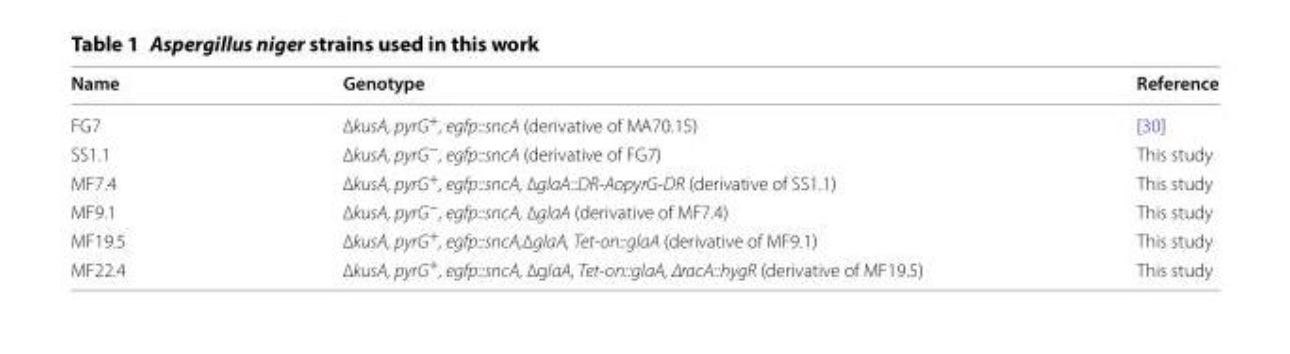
<table><thead><tr><td>Name</td><td>Genotype</td><td>Reference</td></tr></thead><tbody><tr><td>FG7</td><td>∆kusA, pyrG<sup>+</sup>, egfp::sncA (derivative of MA70.15)</td><td>[30]</td></tr><tr><td>SS1.1</td><td>∆kusA, pyrG<sup>−</sup>, egfp::sncA (derivative of FG7)</td><td>This study</td></tr><tr><td>MF7.4</td><td>∆kusA, pyrG<sup>+</sup>, egfp::sncA, ∆glaA::DR-AopyrG-DR (derivative of SS1.1)</td><td>This study</td></tr><tr><td>MF9.1</td><td>∆kusA, pyrG<sup>−</sup>, egfp::sncA, ∆glaA (derivative of MF7.4)</td><td>This study</td></tr><tr><td>MF19.5</td><td>∆kusA, pyrG<sup>+</sup>, egfp::sncA,∆glaA, Tet-on::glaA (derivative of MF9.1)</td><td>This study</td></tr><tr><td>MF22.4</td><td>∆kusA, pyrG<sup>+</sup>, egfp::sncA, ∆glaA, Tet-on::glaA, ∆racA::hygR (derivative of MF19.5)</td><td>This study</td></tr></tbody></table>